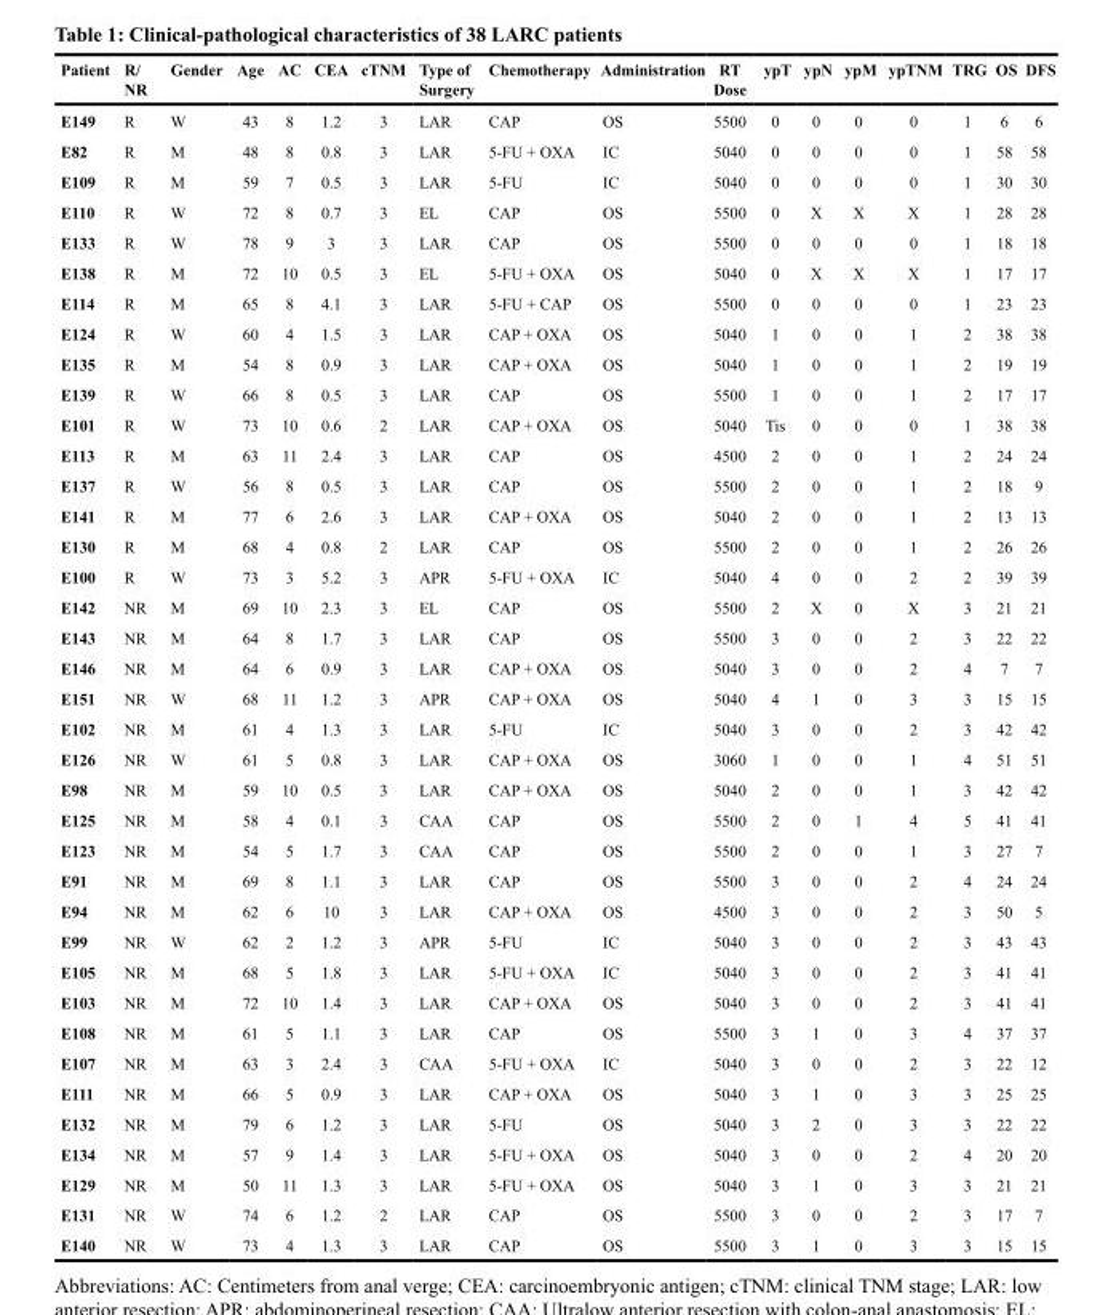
<table><thead><tr><td>Patient</td><td>R/ NR</td><td>Gender</td><td>Age</td><td>AC</td><td>CEA</td><td>cTNM</td><td>Type of Surgery</td><td>Chemotherapy</td><td>Administration</td><td>RT Dose</td><td>ypT</td><td>ypN</td><td>ypM</td><td>ypTNM</td><td>TRG</td><td>OS</td><td>DFS</td></tr></thead><tbody><tr><td>E149</td><td>R</td><td>W</td><td>43</td><td>8</td><td>1.2</td><td>3</td><td>LAR</td><td>CAP</td><td>OS</td><td>5500</td><td>0</td><td>0</td><td>0</td><td>0</td><td>1</td><td>6</td><td>6</td></tr><tr><td>E82</td><td>R</td><td>M</td><td>48</td><td>8</td><td>0.8</td><td>3</td><td>LAR</td><td>5-FU + OXA</td><td>IC</td><td>5040</td><td>0</td><td>0</td><td>0</td><td>0</td><td>1</td><td>58</td><td>58</td></tr><tr><td>E109</td><td>R</td><td>M</td><td>59</td><td>7</td><td>0.5</td><td>3</td><td>LAR</td><td>5-FU</td><td>IC</td><td>5040</td><td>0</td><td>0</td><td>0</td><td>0</td><td>1</td><td>30</td><td>30</td></tr><tr><td>E110</td><td>R</td><td>W</td><td>72</td><td>8</td><td>0.7</td><td>3</td><td>EL</td><td>CAP</td><td>OS</td><td>5500</td><td>0</td><td>X</td><td>X</td><td>X</td><td>1</td><td>28</td><td>28</td></tr><tr><td>E133</td><td>R</td><td>W</td><td>78</td><td>9</td><td>3</td><td>3</td><td>LAR</td><td>CAP</td><td>OS</td><td>5500</td><td>0</td><td>0</td><td>0</td><td>0</td><td>1</td><td>18</td><td>18</td></tr><tr><td>E138</td><td>R</td><td>M</td><td>72</td><td>10</td><td>0.5</td><td>3</td><td>EL</td><td>5-FU + OXA</td><td>OS</td><td>5040</td><td>0</td><td>X</td><td>X</td><td>X</td><td>1</td><td>17</td><td>17</td></tr><tr><td>E114</td><td>R</td><td>M</td><td>65</td><td>8</td><td>4.1</td><td>3</td><td>LAR</td><td>5-FU + CAP</td><td>OS</td><td>5500</td><td>0</td><td>0</td><td>0</td><td>0</td><td>1</td><td>23</td><td>23</td></tr><tr><td>E124</td><td>R</td><td>W</td><td>60</td><td>4</td><td>1.5</td><td>3</td><td>LAR</td><td>CAP + OXA</td><td>OS</td><td>5040</td><td>1</td><td>0</td><td>0</td><td>1</td><td>2</td><td>38</td><td>38</td></tr><tr><td>E135</td><td>R</td><td>M</td><td>54</td><td>8</td><td>0.9</td><td>3</td><td>LAR</td><td>CAP + OXA</td><td>OS</td><td>5040</td><td>1</td><td>0</td><td>0</td><td>1</td><td>2</td><td>19</td><td>19</td></tr><tr><td>E139</td><td>R</td><td>W</td><td>66</td><td>8</td><td>0.5</td><td>3</td><td>LAR</td><td>CAP</td><td>OS</td><td>5500</td><td>1</td><td>0</td><td>0</td><td>1</td><td>2</td><td>17</td><td>17</td></tr><tr><td>E101</td><td>R</td><td>W</td><td>73</td><td>10</td><td>0.6</td><td>2</td><td>LAR</td><td>CAP + OXA</td><td>OS</td><td>5040</td><td>Tis</td><td>0</td><td>0</td><td>0</td><td>1</td><td>38</td><td>38</td></tr><tr><td>E113</td><td>R</td><td>M</td><td>63</td><td>11</td><td>2.4</td><td>3</td><td>LAR</td><td>CAP</td><td>OS</td><td>4500</td><td>2</td><td>0</td><td>0</td><td>1</td><td>2</td><td>24</td><td>24</td></tr><tr><td>E137</td><td>R</td><td>W</td><td>56</td><td>8</td><td>0.5</td><td>3</td><td>LAR</td><td>CAP</td><td>OS</td><td>5500</td><td>2</td><td>0</td><td>0</td><td>1</td><td>2</td><td>18</td><td>9</td></tr><tr><td>E141</td><td>R</td><td>M</td><td>77</td><td>6</td><td>2.6</td><td>3</td><td>LAR</td><td>CAP + OXA</td><td>OS</td><td>5040</td><td>2</td><td>0</td><td>0</td><td>1</td><td>2</td><td>13</td><td>13</td></tr><tr><td>E130</td><td>R</td><td>M</td><td>68</td><td>4</td><td>0.8</td><td>2</td><td>LAR</td><td>CAP</td><td>OS</td><td>5500</td><td>2</td><td>0</td><td>0</td><td>1</td><td>2</td><td>26</td><td>26</td></tr><tr><td>E100</td><td>R</td><td>W</td><td>73</td><td>3</td><td>5.2</td><td>3</td><td>APR</td><td>5-FU + OXA</td><td>IC</td><td>5040</td><td>4</td><td>0</td><td>0</td><td>2</td><td>2</td><td>39</td><td>39</td></tr><tr><td>E142</td><td>NR</td><td>M</td><td>69</td><td>10</td><td>2.3</td><td>3</td><td>EL</td><td>CAP</td><td>OS</td><td>5500</td><td>2</td><td>X</td><td>0</td><td>X</td><td>3</td><td>21</td><td>21</td></tr><tr><td>E143</td><td>NR</td><td>M</td><td>64</td><td>8</td><td>1.7</td><td>3</td><td>LAR</td><td>CAP</td><td>OS</td><td>5500</td><td>3</td><td>0</td><td>0</td><td>2</td><td>3</td><td>22</td><td>22</td></tr><tr><td>E146</td><td>NR</td><td>M</td><td>64</td><td>6</td><td>0.9</td><td>3</td><td>LAR</td><td>CAP + OXA</td><td>OS</td><td>5040</td><td>3</td><td>0</td><td>0</td><td>2</td><td>4</td><td>7</td><td>7</td></tr><tr><td>E151</td><td>NR</td><td>W</td><td>68</td><td>11</td><td>1.2</td><td>3</td><td>APR</td><td>CAP + OXA</td><td>OS</td><td>5040</td><td>4</td><td>1</td><td>0</td><td>3</td><td>3</td><td>15</td><td>15</td></tr><tr><td>E102</td><td>NR</td><td>M</td><td>61</td><td>4</td><td>1.3</td><td>3</td><td>LAR</td><td>5-FU</td><td>IC</td><td>5040</td><td>3</td><td>0</td><td>0</td><td>2</td><td>3</td><td>42</td><td>42</td></tr><tr><td>E126</td><td>NR</td><td>W</td><td>61</td><td>5</td><td>0.8</td><td>3</td><td>LAR</td><td>CAP + OXA</td><td>OS</td><td>3060</td><td>1</td><td>0</td><td>0</td><td>1</td><td>4</td><td>51</td><td>51</td></tr><tr><td>E98</td><td>NR</td><td>M</td><td>59</td><td>10</td><td>0.5</td><td>3</td><td>LAR</td><td>CAP + OXA</td><td>OS</td><td>5040</td><td>2</td><td>0</td><td>0</td><td>1</td><td>3</td><td>42</td><td>42</td></tr><tr><td>E125</td><td>NR</td><td>M</td><td>58</td><td>4</td><td>0.1</td><td>3</td><td>CAA</td><td>CAP</td><td>OS</td><td>5500</td><td>2</td><td>0</td><td>1</td><td>4</td><td>5</td><td>41</td><td>41</td></tr><tr><td>E123</td><td>NR</td><td>M</td><td>54</td><td>5</td><td>1.7</td><td>3</td><td>CAA</td><td>CAP</td><td>OS</td><td>5500</td><td>2</td><td>0</td><td>0</td><td>1</td><td>3</td><td>27</td><td>7</td></tr><tr><td>E91</td><td>NR</td><td>M</td><td>69</td><td>8</td><td>1.1</td><td>3</td><td>LAR</td><td>CAP</td><td>OS</td><td>5500</td><td>3</td><td>0</td><td>0</td><td>2</td><td>4</td><td>24</td><td>24</td></tr><tr><td>E94</td><td>NR</td><td>M</td><td>62</td><td>6</td><td>10</td><td>3</td><td>LAR</td><td>CAP + OXA</td><td>OS</td><td>4500</td><td>3</td><td>0</td><td>0</td><td>2</td><td>3</td><td>50</td><td>5</td></tr><tr><td>E99</td><td>NR</td><td>W</td><td>62</td><td>2</td><td>1.2</td><td>3</td><td>APR</td><td>5-FU</td><td>IC</td><td>5040</td><td>3</td><td>0</td><td>0</td><td>2</td><td>3</td><td>43</td><td>43</td></tr><tr><td>E105</td><td>NR</td><td>M</td><td>68</td><td>5</td><td>1.8</td><td>3</td><td>LAR</td><td>5-FU + OXA</td><td>IC</td><td>5040</td><td>3</td><td>0</td><td>0</td><td>2</td><td>3</td><td>41</td><td>41</td></tr><tr><td>E103</td><td>NR</td><td>M</td><td>72</td><td>10</td><td>1.4</td><td>3</td><td>LAR</td><td>CAP + OXA</td><td>OS</td><td>5040</td><td>3</td><td>0</td><td>0</td><td>2</td><td>3</td><td>41</td><td>41</td></tr><tr><td>E108</td><td>NR</td><td>M</td><td>61</td><td>5</td><td>1.1</td><td>3</td><td>LAR</td><td>CAP</td><td>OS</td><td>5500</td><td>3</td><td>1</td><td>0</td><td>3</td><td>4</td><td>37</td><td>37</td></tr><tr><td>E107</td><td>NR</td><td>M</td><td>63</td><td>3</td><td>2.4</td><td>3</td><td>CAA</td><td>5-FU + OXA</td><td>IC</td><td>5040</td><td>3</td><td>0</td><td>0</td><td>2</td><td>3</td><td>22</td><td>12</td></tr><tr><td>E111</td><td>NR</td><td>M</td><td>66</td><td>5</td><td>0.9</td><td>3</td><td>LAR</td><td>CAP + OXA</td><td>OS</td><td>5040</td><td>3</td><td>1</td><td>0</td><td>3</td><td>3</td><td>25</td><td>25</td></tr><tr><td>E132</td><td>NR</td><td>M</td><td>79</td><td>6</td><td>1.2</td><td>3</td><td>LAR</td><td>5-FU</td><td>OS</td><td>5040</td><td>3</td><td>2</td><td>0</td><td>3</td><td>3</td><td>22</td><td>22</td></tr><tr><td>E134</td><td>NR</td><td>M</td><td>57</td><td>9</td><td>1.4</td><td>3</td><td>LAR</td><td>5-FU + OXA</td><td>OS</td><td>5040</td><td>3</td><td>0</td><td>0</td><td>2</td><td>4</td><td>20</td><td>20</td></tr><tr><td>E129</td><td>NR</td><td>M</td><td>50</td><td>11</td><td>1.3</td><td>3</td><td>LAR</td><td>5-FU + OXA</td><td>OS</td><td>5040</td><td>3</td><td>1</td><td>0</td><td>3</td><td>3</td><td>21</td><td>21</td></tr><tr><td>E131</td><td>NR</td><td>W</td><td>74</td><td>6</td><td>1.2</td><td>2</td><td>LAR</td><td>CAP</td><td>OS</td><td>5500</td><td>3</td><td>0</td><td>0</td><td>2</td><td>3</td><td>17</td><td>7</td></tr><tr><td>E140</td><td>NR</td><td>W</td><td>73</td><td>4</td><td>1.3</td><td>3</td><td>LAR</td><td>CAP</td><td>OS</td><td>5500</td><td>3</td><td>1</td><td>0</td><td>3</td><td>3</td><td>15</td><td>15</td></tr></tbody></table>